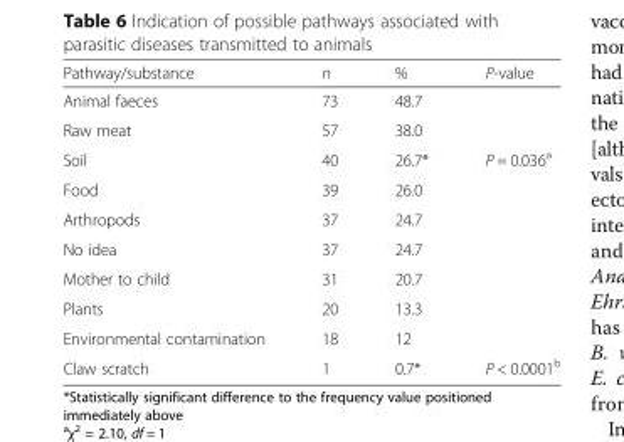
<table><thead><tr><td>Pathway/substance</td><td>n</td><td>%</td><td>P-value</td></tr></thead><tbody><tr><td>Animal faeces</td><td>73</td><td>48.7</td><td></td></tr><tr><td>Raw meat</td><td>57</td><td>38.0</td><td></td></tr><tr><td>Soil</td><td>40</td><td>26.7*</td><td>P = 0.036<sup>a</sup></td></tr><tr><td>Food</td><td>39</td><td>26.0</td><td></td></tr><tr><td>Arthropods</td><td>37</td><td>24.7</td><td></td></tr><tr><td>No idea</td><td>37</td><td>24.7</td><td></td></tr><tr><td>Mother to child</td><td>31</td><td>20.7</td><td></td></tr><tr><td>Plants</td><td>20</td><td>13.3</td><td></td></tr><tr><td>Environmental contamination</td><td>18</td><td>12</td><td></td></tr><tr><td>Claw scratch</td><td>1</td><td>0.7*</td><td>P &lt; 0.0001<sup>b</sup></td></tr></tbody></table>